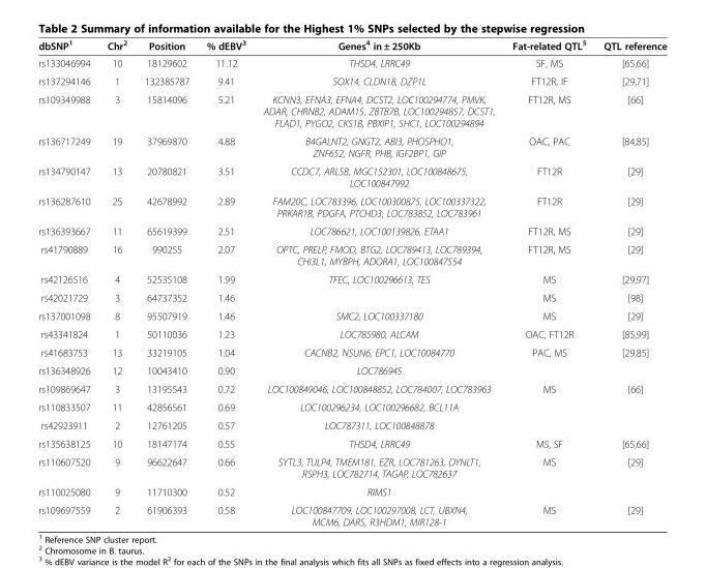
<table><thead><tr><td>dbSNP<sup>1</sup></td><td>Chr<sup>2</sup></td><td>Position</td><td>% dEBV<sup>3</sup></td><td>Genes<sup>4</sup> in ± 250Kb</td><td>Fat-related QTL<sup>5</sup></td><td>QTL reference</td></tr></thead><tbody><tr><td>rs133046994</td><td>10</td><td>18129602</td><td>11.12</td><td>THSD4, LRRC49</td><td>SF, MS</td><td>[65,66]</td></tr><tr><td>rs137294146</td><td>1</td><td>132385787</td><td>9.41</td><td>SOX14, CLDN18, DZP1L</td><td>FT12R, IF</td><td>[29,71]</td></tr><tr><td>rs109349988</td><td>3</td><td>15814096</td><td>5.21</td><td>KCNN3, EFNA3, EFNA4, DCST2, LOC100294774, PMVK, ADAR, CHRNB2, ADAM15, ZBTB7B, LOC100294857, DCST1, FLAD1, PYGO2, CKS1B, PBXIP1, SHC1, LOC100294894</td><td>FT12R, MS</td><td>[66]</td></tr><tr><td>rs136717249</td><td>19</td><td>37969870</td><td>4.88</td><td>B4GALNT2, GNGT2, ABI3, PHOSPHO1, ZNF652, NGFR, PHB, IGF2BP1, GIP</td><td>OAC, PAC</td><td>[84,85]</td></tr><tr><td>rs134790147</td><td>13</td><td>20780821</td><td>3.51</td><td>CCDC7, ARL5B, MGC152301, LOC100848675, LOC100847992</td><td>FT12R</td><td>[29]</td></tr><tr><td>rs136287610</td><td>25</td><td>42678992</td><td>2.89</td><td>FAM20C, LOC783396, LOC100300875, LOC100337322, PRKAR1B, PDGFA, PTCHD3, LOC783852, LOC783961</td><td>FT12R</td><td>[29]</td></tr><tr><td>rs136393667</td><td>11</td><td>65619399</td><td>2.51</td><td>LOC786621, LOC100139826, ETAA1</td><td>FT12R, MS</td><td>[29]</td></tr><tr><td>rs41790889</td><td>16</td><td>990255</td><td>2.07</td><td>OPTC, PRELP, FMOD, BTG2, LOC789413, LOC789394, CHI3L1, MYBPH, ADORA1, LOC100847554</td><td>FT12R, MS</td><td>[29]</td></tr><tr><td>rs42126516</td><td>4</td><td>52535108</td><td>1.99</td><td>TFEC, LOC100296613, TES</td><td>MS</td><td>[29,97]</td></tr><tr><td>rs42021729</td><td>3</td><td>64737352</td><td>1.46</td><td></td><td>MS</td><td>[98]</td></tr><tr><td>rs137001098</td><td>8</td><td>95507919</td><td>1.46</td><td>SMC2, LOC100337180</td><td>MS</td><td>[29]</td></tr><tr><td>rs43341824</td><td>1</td><td>50110036</td><td>1.23</td><td>LOC785980, ALCAM</td><td>OAC, FT12R</td><td>[85,99]</td></tr><tr><td>rs41683753</td><td>13</td><td>33219105</td><td>1.04</td><td>CACNB2, NSUN6, EPC1, LOC10084770</td><td>PAC, MS</td><td>[29,85]</td></tr><tr><td>rs136348926</td><td>12</td><td>10043410</td><td>0.90</td><td>LOC786945</td><td></td><td></td></tr><tr><td>rs109869647</td><td>3</td><td>13195543</td><td>0.72</td><td>LOC100849046, LOC100848852, LOC784007, LOC783963</td><td>MS</td><td>[66]</td></tr><tr><td>rs110833507</td><td>11</td><td>42856561</td><td>0.69</td><td>LOC100296234, LOC100296682, BCL11A</td><td></td><td></td></tr><tr><td>rs42923911</td><td>2</td><td>12761205</td><td>0.57</td><td>LOC787311, LOC100848878</td><td></td><td></td></tr><tr><td>rs135638125</td><td>10</td><td>18147174</td><td>0.55</td><td>THSD4, LRRC49</td><td>MS, SF</td><td>[65,66]</td></tr><tr><td>rs110607520</td><td>9</td><td>96622647</td><td>0.66</td><td>SYTL3, TULP4, TMEM181, EZR, LOC781263, DYNLT1, RSPH3, LOC782714, TAGAP, LOC782637</td><td>MS</td><td>[29]</td></tr><tr><td>rs110025080</td><td>9</td><td>11710300</td><td>0.52</td><td>RIMS1</td><td></td><td></td></tr><tr><td>rs109697559</td><td>2</td><td>61906393</td><td>0.58</td><td>LOC100847709, LOC100297008, LCT, UBXN4, MCM6, DARS, R3HDM1, MIR128-1</td><td>MS</td><td>[29]</td></tr></tbody></table>